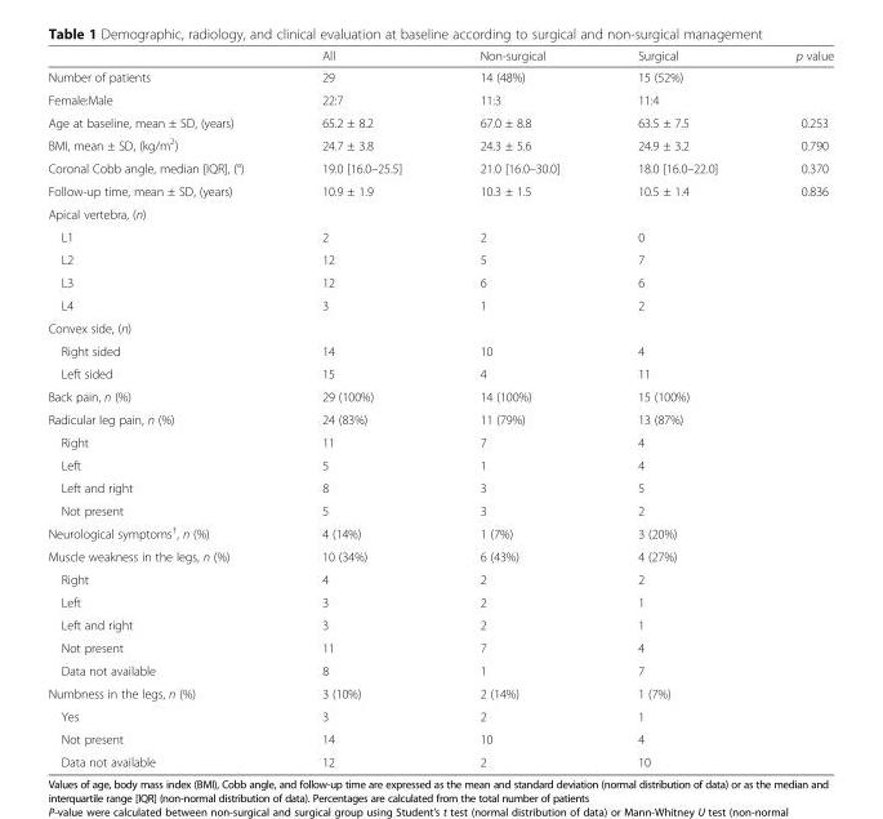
<table><thead><tr><td></td><td>All</td><td>Non-surgical</td><td>Surgical</td><td>p value</td></tr></thead><tbody><tr><td>Number of patients</td><td>29</td><td>14 (48%)</td><td>15 (52%)</td><td></td></tr><tr><td>Female:Male</td><td>22:7</td><td>11:3</td><td>11:4</td><td></td></tr><tr><td>Age at baseline, mean ± SD, (years)</td><td>65.2 ± 8.2</td><td>67.0 ± 8.8</td><td>63.5 ± 7.5</td><td>0.253</td></tr><tr><td>BMI, mean ± SD, (kg/m<sup>2</sup>)</td><td>24.7 ± 3.8</td><td>24.3 ± 5.6</td><td>24.9 ± 3.2</td><td>0.790</td></tr><tr><td>Coronal Cobb angle, median [IQR], (°)</td><td>19.0 [16.0–25.5]</td><td>21.0 [16.0–30.0]</td><td>18.0 [16.0–22.0]</td><td>0.370</td></tr><tr><td>Follow-up time, mean ± SD, (years)</td><td>10.9 ± 1.9</td><td>10.3 ± 1.5</td><td>10.5 ± 1.4</td><td>0.836</td></tr><tr><td colspan="5">Apical vertebra, (n)</td></tr><tr><td>L1</td><td>2</td><td>2</td><td>0</td><td></td></tr><tr><td>L2</td><td>12</td><td>5</td><td>7</td><td></td></tr><tr><td>L3</td><td>12</td><td>6</td><td>6</td><td></td></tr><tr><td>L4</td><td>3</td><td>1</td><td>2</td><td></td></tr><tr><td colspan="5">Convex side, (n)</td></tr><tr><td>Right sided</td><td>14</td><td>10</td><td>4</td><td></td></tr><tr><td>Left sided</td><td>15</td><td>4</td><td>11</td><td></td></tr><tr><td>Back pain, n (%)</td><td>29 (100%)</td><td>14 (100%)</td><td>15 (100%)</td><td></td></tr><tr><td>Radicular leg pain, n (%)</td><td>24 (83%)</td><td>11 (79%)</td><td>13 (87%)</td><td></td></tr><tr><td>Right</td><td>11</td><td>7</td><td>4</td><td></td></tr><tr><td>Left</td><td>5</td><td>1</td><td>4</td><td></td></tr><tr><td>Left and right</td><td>8</td><td>3</td><td>5</td><td></td></tr><tr><td>Not present</td><td>5</td><td>3</td><td>2</td><td></td></tr><tr><td>Neurological symptoms<sup>†</sup>, n (%)</td><td>4 (14%)</td><td>1 (7%)</td><td>3 (20%)</td><td></td></tr><tr><td>Muscle weakness in the legs, n (%)</td><td>10 (34%)</td><td>6 (43%)</td><td>4 (27%)</td><td></td></tr><tr><td>Right</td><td>4</td><td>2</td><td>2</td><td></td></tr><tr><td>Left</td><td>3</td><td>2</td><td>1</td><td></td></tr><tr><td>Left and right</td><td>3</td><td>2</td><td>1</td><td></td></tr><tr><td>Not present</td><td>11</td><td>7</td><td>4</td><td></td></tr><tr><td>Data not available</td><td>8</td><td>1</td><td>7</td><td></td></tr><tr><td>Numbness in the legs, n (%)</td><td>3 (10%)</td><td>2 (14%)</td><td>1 (7%)</td><td></td></tr><tr><td>Yes</td><td>3</td><td>2</td><td>1</td><td></td></tr><tr><td>Not present</td><td>14</td><td>10</td><td>4</td><td></td></tr><tr><td>Data not available</td><td>12</td><td>2</td><td>10</td><td></td></tr></tbody></table>